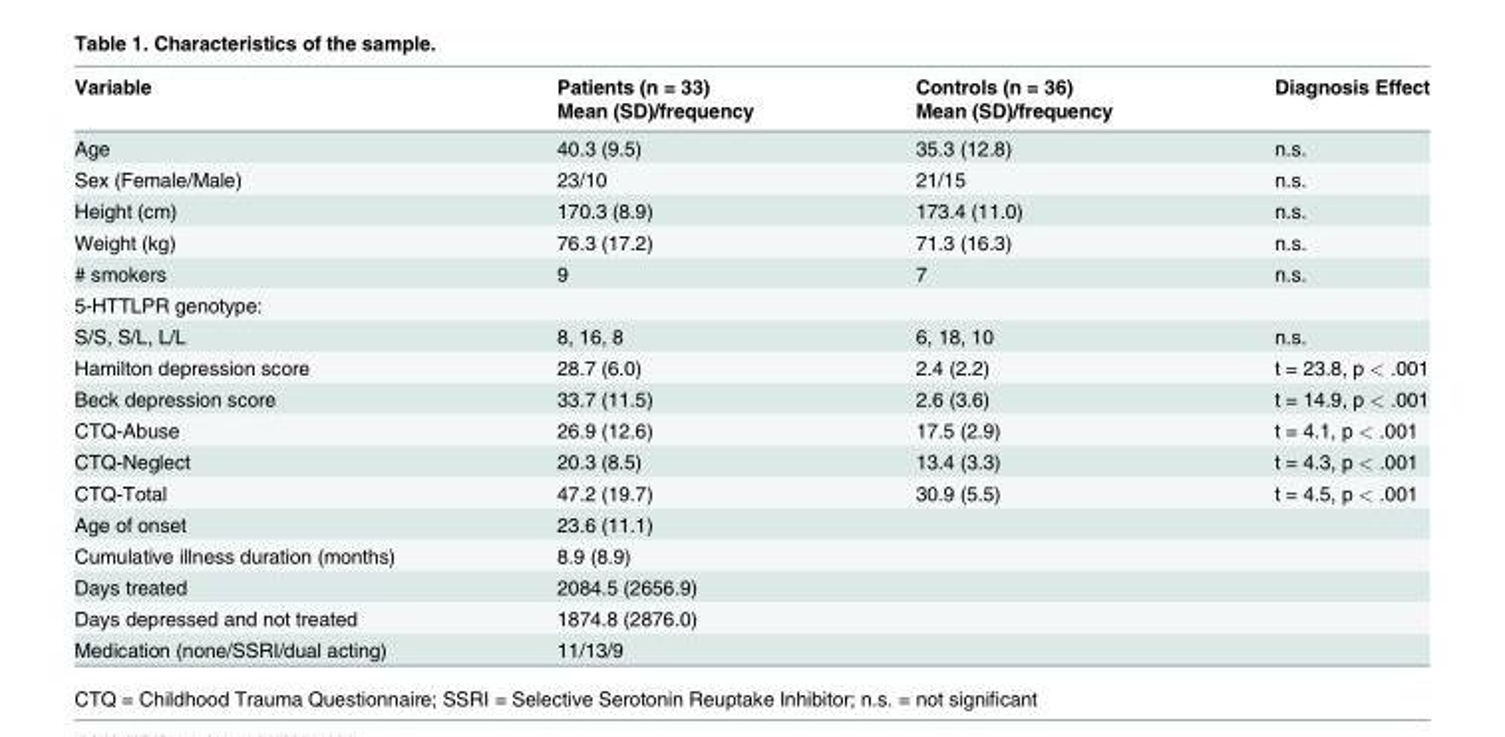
<table><thead><tr><td rowspan="2">Variable</td><td rowspan="2">Patients (n = 33) Mean (SD)/frequency</td><td rowspan="2">Controls (n = 36) Mean (SD)/frequency</td><td rowspan="2">Diagnosis Effect</td></tr><tr></tr></thead><tbody><tr><td>Age</td><td>40.3 (9.5)</td><td>35.3 (12.8)</td><td>n.s.</td></tr><tr><td>Sex (Female/Male)</td><td>23/10</td><td>21/15</td><td>n.s.</td></tr><tr><td>Height (cm)</td><td>170.3 (8.9)</td><td>173.4 (11.0)</td><td>n.s.</td></tr><tr><td>Weight (kg)</td><td>76.3 (17.2)</td><td>71.3 (16.3)</td><td>n.s.</td></tr><tr><td># smokers</td><td>9</td><td>7</td><td>n.s.</td></tr><tr><td colspan="4">5-HTTLPR genotype:</td></tr><tr><td>S/S, S/L, L/L</td><td>8, 16, 8</td><td>6, 18, 10</td><td>n.s.</td></tr><tr><td>Hamilton depression score</td><td>28.7 (6.0)</td><td>2.4 (2.2)</td><td>t = 23.8, p &lt; .001</td></tr><tr><td>Beck depression score</td><td>33.7 (11.5)</td><td>2.6 (3.6)</td><td>t = 14.9, p &lt; .001</td></tr><tr><td>CTQ-Abuse</td><td>26.9 (12.6)</td><td>17.5 (2.9)</td><td>t = 4.1, p &lt; .001</td></tr><tr><td>CTQ-Neglect</td><td>20.3 (8.5)</td><td>13.4 (3.3)</td><td>t = 4.3, p &lt; .001</td></tr><tr><td>CTQ-Total</td><td>47.2 (19.7)</td><td>30.9 (5.5)</td><td>t = 4.5, p &lt; .001</td></tr><tr><td>Age of onset</td><td>23.6 (11.1)</td><td></td><td></td></tr><tr><td>Cumulative illness duration (months)</td><td>8.9 (8.9)</td><td></td><td></td></tr><tr><td>Days treated</td><td>2084.5 (2656.9)</td><td></td><td></td></tr><tr><td>Days depressed and not treated</td><td>1874.8 (2876.0)</td><td></td><td></td></tr><tr><td>Medication (none/SSRI/dual acting)</td><td>11/13/9</td><td></td><td></td></tr></tbody></table>